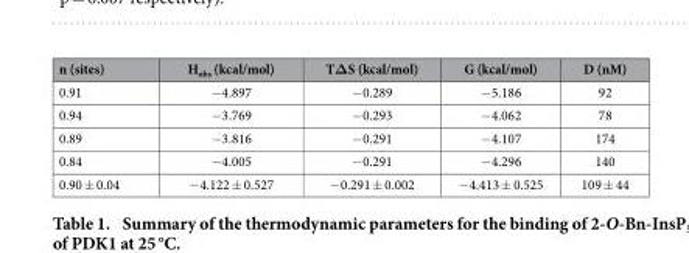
<table><thead><tr><td>n (sites)</td><td>H<sub>obs</sub> (kcal/mol)</td><td>TΔS (kcal/mol)</td><td>G (kcal/mol)</td><td>D (nM)</td></tr></thead><tbody><tr><td>0.91</td><td>− 4.897</td><td>− 0.289</td><td>− 5.186</td><td>92</td></tr><tr><td>0.94</td><td>− 3.769</td><td>− 0.293</td><td>− 4.062</td><td>78</td></tr><tr><td>0.89</td><td>− 3.816</td><td>− 0.291</td><td>− 4.107</td><td>174</td></tr><tr><td>0.84</td><td>− 4.005</td><td>− 0.291</td><td>− 4.296</td><td>140</td></tr><tr><td>0.90 ± 0.04</td><td>− 4.122 ± 0.527</td><td>− 0.291 ± 0.002</td><td>− 4.413 ± 0.525</td><td>109 ± 44</td></tr></tbody></table>